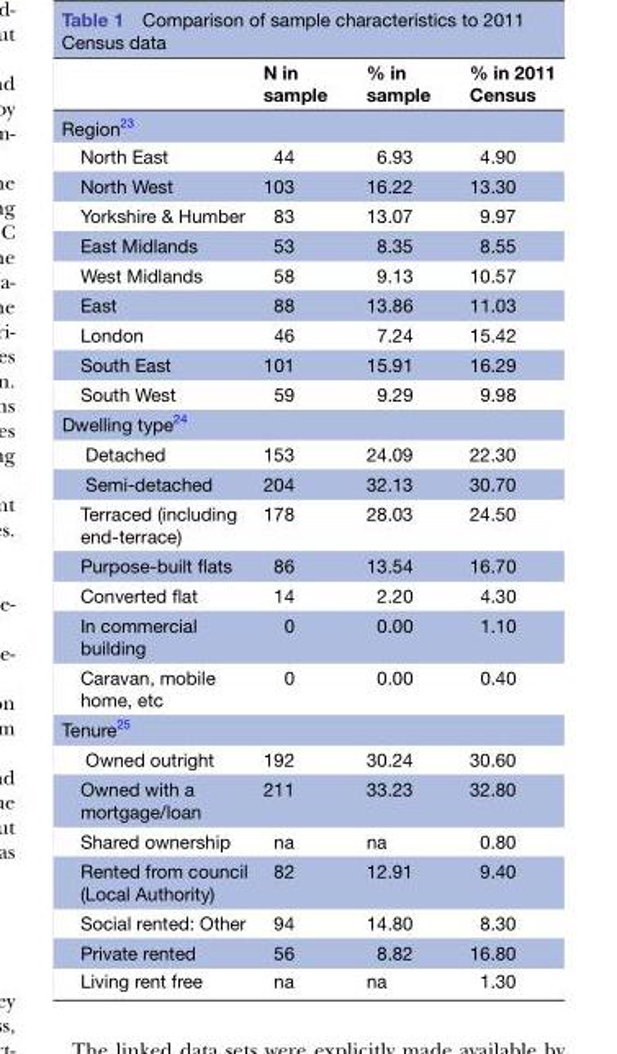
<table><thead><tr><td></td><td>N in sample</td><td>% in sample</td><td>% in 2011 Census</td></tr></thead><tbody><tr><td colspan="4">Region<sup>23</sup></td></tr><tr><td>North East</td><td>44</td><td>6.93</td><td>4.90</td></tr><tr><td>North West</td><td>103</td><td>16.22</td><td>13.30</td></tr><tr><td>Yorkshire &amp; Humber</td><td>83</td><td>13.07</td><td>9.97</td></tr><tr><td>East Midlands</td><td>53</td><td>8.35</td><td>8.55</td></tr><tr><td>West Midlands</td><td>58</td><td>9.13</td><td>10.57</td></tr><tr><td>East</td><td>88</td><td>13.86</td><td>11.03</td></tr><tr><td>London</td><td>46</td><td>7.24</td><td>15.42</td></tr><tr><td>South East</td><td>101</td><td>15.91</td><td>16.29</td></tr><tr><td>South West</td><td>59</td><td>9.29</td><td>9.98</td></tr><tr><td colspan="4">Dwelling type<sup>24</sup></td></tr><tr><td>Detached</td><td>153</td><td>24.09</td><td>22.30</td></tr><tr><td>Semi-detached</td><td>204</td><td>32.13</td><td>30.70</td></tr><tr><td>Terraced (including end-terrace)</td><td>178</td><td>28.03</td><td>24.50</td></tr><tr><td>Purpose-built flats</td><td>86</td><td>13.54</td><td>16.70</td></tr><tr><td>Converted flat</td><td>14</td><td>2.20</td><td>4.30</td></tr><tr><td>In commercial building</td><td>0</td><td>0.00</td><td>1.10</td></tr><tr><td>Caravan, mobile home, etc</td><td>0</td><td>0.00</td><td>0.40</td></tr><tr><td colspan="4">Tenure<sup>25</sup></td></tr><tr><td>Owned outright</td><td>192</td><td>30.24</td><td>30.60</td></tr><tr><td>Owned with a mortgage/loan</td><td>211</td><td>33.23</td><td>32.80</td></tr><tr><td>Shared ownership</td><td>na</td><td>na</td><td>0.80</td></tr><tr><td>Rented from council (Local Authority)</td><td>82</td><td>12.91</td><td>9.40</td></tr><tr><td>Social rented: Other</td><td>94</td><td>14.80</td><td>8.30</td></tr><tr><td>Private rented</td><td>56</td><td>8.82</td><td>16.80</td></tr><tr><td>Living rent free</td><td>na</td><td>na</td><td>1.30</td></tr></tbody></table>